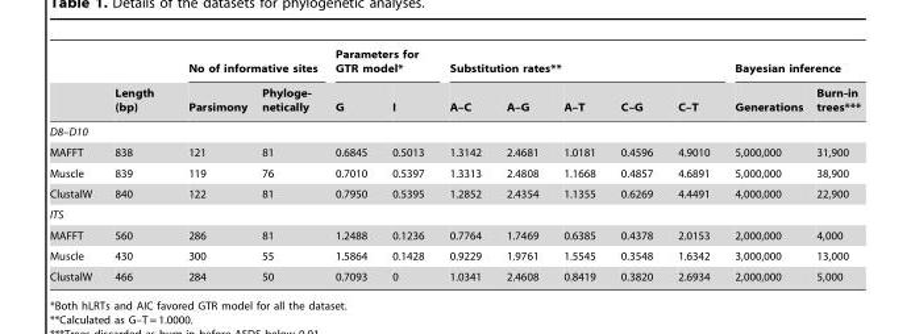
<table><thead><tr><td rowspan="2"></td><td rowspan="2">Length (bp)</td><td colspan="2">No of informative sites</td><td colspan="2">Parameters for GTR model*</td><td colspan="5">Substitution rates**</td><td colspan="2">Bayesian inference</td></tr><tr><td>Parsimony</td><td>Phyloge- netically</td><td>G</td><td>I</td><td>A–C</td><td>A–G</td><td>A–T</td><td>C–G</td><td>C–T</td><td>Generations</td><td>Burn-in trees***</td></tr></thead><tbody><tr><td colspan="13">D8–D10</td></tr><tr><td>MAFFT</td><td>838</td><td>121</td><td>81</td><td>0.6845</td><td>0.5013</td><td>1.3142</td><td>2.4681</td><td>1.0181</td><td>0.4596</td><td>4.9010</td><td>5,000,000</td><td>31,900</td></tr><tr><td>Muscle</td><td>839</td><td>119</td><td>76</td><td>0.7010</td><td>0.5397</td><td>1.3313</td><td>2.4808</td><td>1.1668</td><td>0.4857</td><td>4.6891</td><td>5,000,000</td><td>38,900</td></tr><tr><td>ClustalW</td><td>840</td><td>122</td><td>81</td><td>0.7950</td><td>0.5395</td><td>1.2852</td><td>2.4354</td><td>1.1355</td><td>0.6269</td><td>4.4491</td><td>4,000,000</td><td>22,900</td></tr><tr><td colspan="13">ITS</td></tr><tr><td>MAFFT</td><td>560</td><td>286</td><td>81</td><td>1.2488</td><td>0.1236</td><td>0.7764</td><td>1.7469</td><td>0.6385</td><td>0.4378</td><td>2.0153</td><td>2,000,000</td><td>4,000</td></tr><tr><td>Muscle</td><td>430</td><td>300</td><td>55</td><td>1.5864</td><td>0.1428</td><td>0.9229</td><td>1.9761</td><td>1.5545</td><td>0.3548</td><td>1.6342</td><td>3,000,000</td><td>13,000</td></tr><tr><td>ClustalW</td><td>466</td><td>284</td><td>50</td><td>0.7093</td><td>0</td><td>1.0341</td><td>2.4608</td><td>0.8419</td><td>0.3820</td><td>2.6934</td><td>2,000,000</td><td>5,000</td></tr></tbody></table>